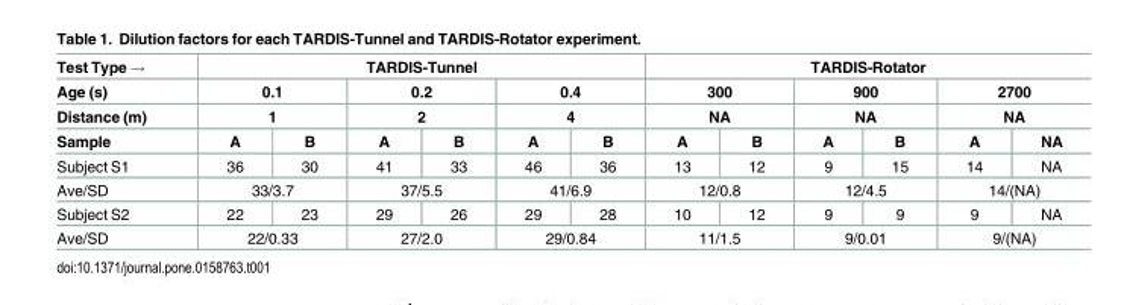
<table><thead><tr><td rowspan="4">Test Type → Age (s) Distance (m) Sample</td><td colspan="6">TARDIS-Tunnel</td><td colspan="6">TARDIS-Rotator</td></tr><tr><td rowspan="2" colspan="2">0.1 1</td><td rowspan="2" colspan="2">0.2 2</td><td rowspan="2" colspan="2">0.4 4</td><td rowspan="2" colspan="2">300 NA</td><td rowspan="2" colspan="2">900 NA</td><td rowspan="2" colspan="2">2700 NA</td></tr><tr></tr><tr><td>A</td><td>B</td><td>A</td><td>B</td><td>A</td><td>B</td><td>A</td><td>B</td><td>A</td><td>B</td><td>A</td><td>NA</td></tr></thead><tbody><tr><td>Subject S1</td><td>36</td><td>30</td><td>41</td><td>33</td><td>46</td><td>36</td><td>13</td><td>12</td><td>9</td><td>15</td><td>14</td><td>NA</td></tr><tr><td>Ave/SD</td><td colspan="2">33/3.7</td><td colspan="2">37/5.5</td><td colspan="2">41/6.9</td><td colspan="2">12/0.8</td><td colspan="2">12/4.5</td><td colspan="2">14/(NA)</td></tr><tr><td>Subject S2</td><td>22</td><td>23</td><td>29</td><td>26</td><td>29</td><td>28</td><td>10</td><td>12</td><td>9</td><td>9</td><td>9</td><td>NA</td></tr><tr><td>Ave/SD</td><td colspan="2">22/0.33</td><td colspan="2">27/2.0</td><td colspan="2">29/0.84</td><td colspan="2">11/1.5</td><td colspan="2">9/0.01</td><td colspan="2">9/(NA)</td></tr></tbody></table>